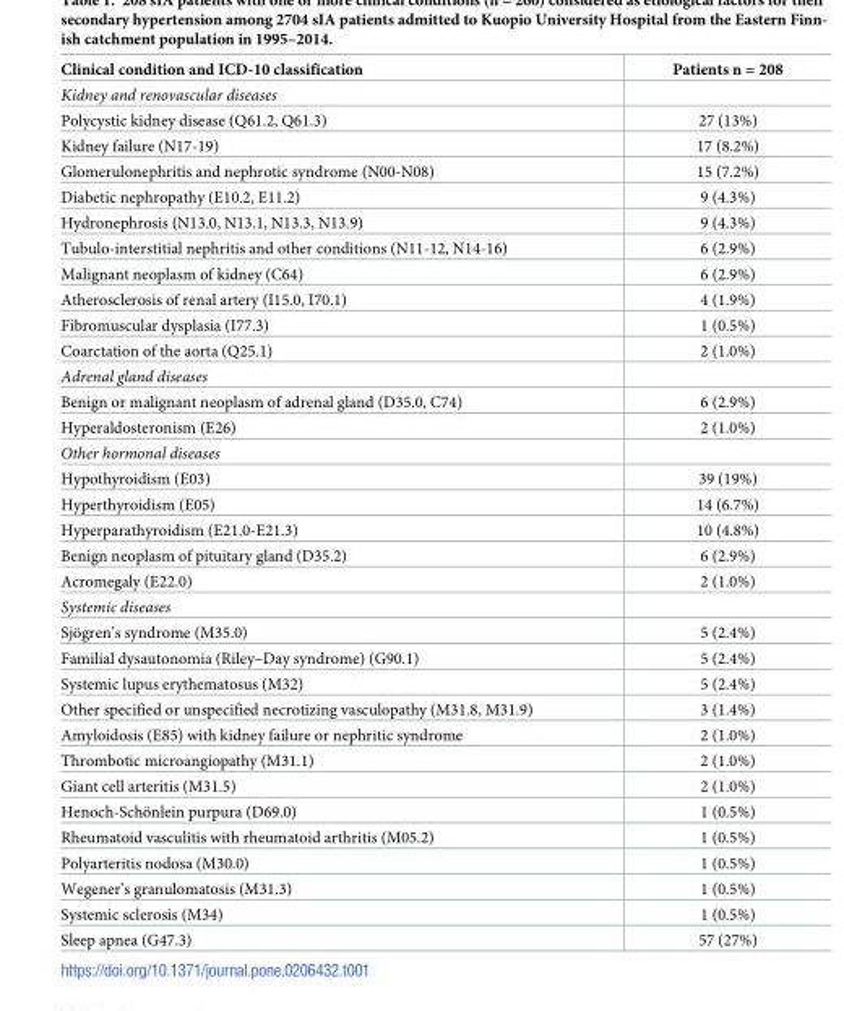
<table><thead><tr><td>Clinical condition and ICD-10 classification</td><td>Patients n = 208</td></tr></thead><tbody><tr><td colspan="2">Kidney and renovascular diseases</td></tr><tr><td>Polycystic kidney disease (Q61.2, Q61.3)</td><td>27 (13%)</td></tr><tr><td>Kidney failure (N17-19)</td><td>17 (8.2%)</td></tr><tr><td>Glomerulonephritis and nephrotic syndrome (N00-N08)</td><td>15 (7.2%)</td></tr><tr><td>Diabetic nephropathy (E10.2, E11.2)</td><td>9 (4.3%)</td></tr><tr><td>Hydronephrosis (N13.0, N13.1, N13.3, N13.9)</td><td>9 (4.3%)</td></tr><tr><td>Tubulo-interstitial nephritis and other conditions (N11-12, N14-16)</td><td>6 (2.9%)</td></tr><tr><td>Malignant neoplasm of kidney (C64)</td><td>6 (2.9%)</td></tr><tr><td>Atherosclerosis of renal artery (I15.0, I70.1)</td><td>4 (1.9%)</td></tr><tr><td>Fibromuscular dysplasia (I77.3)</td><td>1 (0.5%)</td></tr><tr><td>Coarctation of the aorta (Q25.1)</td><td>2 (1.0%)</td></tr><tr><td colspan="2">Adrenal gland diseases</td></tr><tr><td>Benign or malignant neoplasm of adrenal gland (D35.0, C74)</td><td>6 (2.9%)</td></tr><tr><td>Hyperaldosteronism (E26)</td><td>2 (1.0%)</td></tr><tr><td colspan="2">Other hormonal diseases</td></tr><tr><td>Hypothyroidism (E03)</td><td>39 (19%)</td></tr><tr><td>Hyperthyroidism (E05)</td><td>14 (6.7%)</td></tr><tr><td>Hyperparathyroidism (E21.0-E21.3)</td><td>10 (4.8%)</td></tr><tr><td>Benign neoplasm of pituitary gland (D35.2)</td><td>6 (2.9%)</td></tr><tr><td>Acromegaly (E22.0)</td><td>2 (1.0%)</td></tr><tr><td colspan="2">Systemic diseases</td></tr><tr><td>Sjo¨gren’s syndrome (M35.0)</td><td>5 (2.4%)</td></tr><tr><td>Familial dysautonomia (Riley–Day syndrome) (G90.1)</td><td>5 (2.4%)</td></tr><tr><td>Systemic lupus erythematosus (M32)</td><td>5 (2.4%)</td></tr><tr><td>Other specified or unspecified necrotizing vasculopathy (M31.8, M31.9)</td><td>3 (1.4%)</td></tr><tr><td>Amyloidosis (E85) with kidney failure or nephritic syndrome</td><td>2 (1.0%)</td></tr><tr><td>Thrombotic microangiopathy (M31.1)</td><td>2 (1.0%)</td></tr><tr><td>Giant cell arteritis (M31.5)</td><td>2 (1.0%)</td></tr><tr><td>Henoch-Scho¨nlein purpura (D69.0)</td><td>1 (0.5%)</td></tr><tr><td>Rheumatoid vasculitis with rheumatoid arthritis (M05.2)</td><td>1 (0.5%)</td></tr><tr><td>Polyarteritis nodosa (M30.0)</td><td>1 (0.5%)</td></tr><tr><td>Wegener’s granulomatosis (M31.3)</td><td>1 (0.5%)</td></tr><tr><td>Systemic sclerosis (M34)</td><td>1 (0.5%)</td></tr><tr><td>Sleep apnea (G47.3)</td><td>57 (27%)</td></tr></tbody></table>